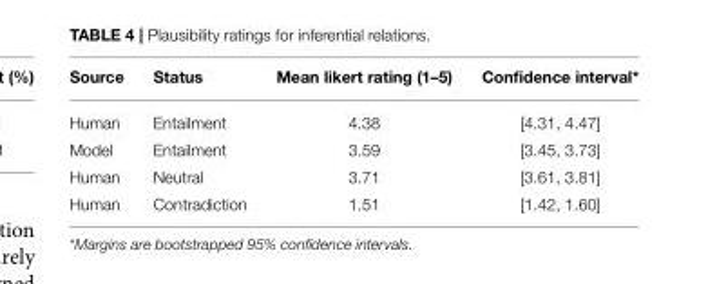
<table><thead><tr><td>Source</td><td>Status</td><td>Mean likert rating (1–5)</td><td>Confidence interval*</td></tr></thead><tbody><tr><td>Human</td><td>Entailment</td><td>4.38</td><td>[4.31, 4.47]</td></tr><tr><td>Model</td><td>Entailment</td><td>3.59</td><td>[3.45, 3.73]</td></tr><tr><td>Human</td><td>Neutral</td><td>3.71</td><td>[3.61, 3.81]</td></tr><tr><td>Human</td><td>Contradiction</td><td>1.51</td><td>[1.42, 1.60]</td></tr></tbody></table>